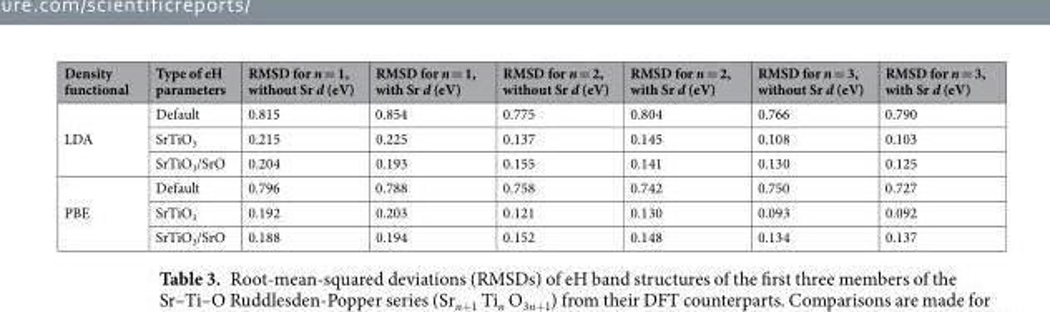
<table><thead><tr><td>Density functional</td><td>Type of eH parameters</td><td>RMSD for n = 1, without Sr d (eV)</td><td>RMSD for n = 1, with Sr d (eV)</td><td>RMSD for n = 2, without Sr d (eV)</td><td>RMSD for n = 2, with Sr d (eV)</td><td>RMSD for n = 3, without Sr d (eV)</td><td>RMSD for n = 3, with Sr d (eV)</td></tr></thead><tbody><tr><td rowspan="3">LDA</td><td>Default</td><td>0.815</td><td>0.854</td><td>0.775</td><td>0.804</td><td>0.766</td><td>0.790</td></tr><tr><td>SrTiO<sub>3</sub></td><td>0.215</td><td>0.225</td><td>0.137</td><td>0.145</td><td>0.108</td><td>0.103</td></tr><tr><td>SrTiO<sub>3</sub>/SrO</td><td>0.204</td><td>0.193</td><td>0.155</td><td>0.141</td><td>0.130</td><td>0.125</td></tr><tr><td rowspan="3">PBE</td><td>Default</td><td>0.796</td><td>0.788</td><td>0.758</td><td>0.742</td><td>0.750</td><td>0.727</td></tr><tr><td>SrTiO<sub>3</sub></td><td>0.192</td><td>0.203</td><td>0.121</td><td>0.130</td><td>0.093</td><td>0.092</td></tr><tr><td>SrTiO<sub>3</sub>/SrO</td><td>0.188</td><td>0.194</td><td>0.152</td><td>0.148</td><td>0.134</td><td>0.137</td></tr></tbody></table>